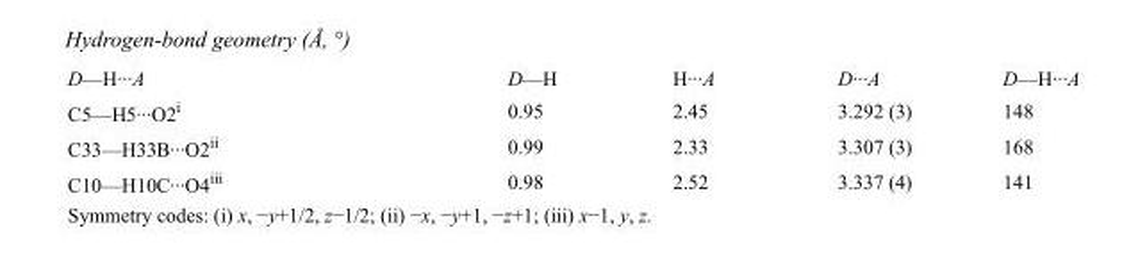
<table><tbody><tr><td>D—H···A</td><td>D—H</td><td>H···A</td><td>D···A</td><td>D—H···A</td></tr><tr><td>C5—H5···O2<sup>i</sup></td><td>0.95</td><td>2.45</td><td>3.292 (3)</td><td>148</td></tr><tr><td>C33—H33B···O2<sup>ii</sup></td><td>0.99</td><td>2.33</td><td>3.307 (3)</td><td>168</td></tr><tr><td>C10—H10C···O4<sup>iii</sup></td><td>0.98</td><td>2.52</td><td>3.337 (4)</td><td>141</td></tr></tbody></table>